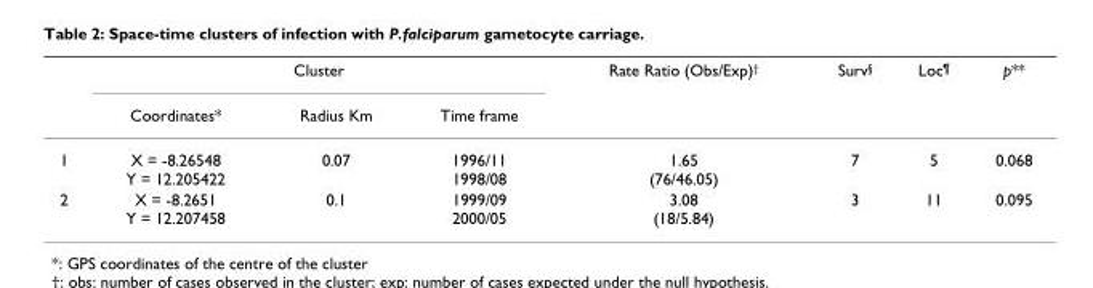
<table><thead><tr><td rowspan="2"></td><td colspan="3">Cluster</td><td rowspan="2">Rate Ratio (Obs/Exp)†</td><td rowspan="2">Surv§</td><td rowspan="2">Loc¶</td><td rowspan="2">p**</td></tr><tr><td>Coordinates*</td><td>Radius Km</td><td>Time frame</td></tr></thead><tbody><tr><td>1</td><td>X = -8.26548 Y = 12.205422</td><td>0.07</td><td>1996/11 1998/08</td><td>1.65 (76/46.05)</td><td>7</td><td>5</td><td>0.068</td></tr><tr><td>2</td><td>X = -8.2651 Y = 12.207458</td><td>0.1</td><td>1999/09 2000/05</td><td>3.08 (18/5.84)</td><td>3</td><td>11</td><td>0.095</td></tr></tbody></table>